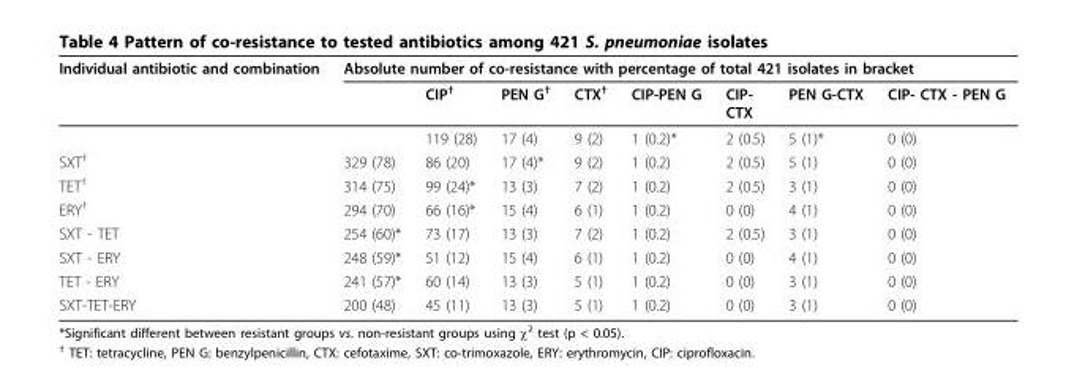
<table><thead><tr><td rowspan="2">Individual antibiotic and combination</td><td colspan="8">Absolute number of co-resistance with percentage of total 421 isolates in bracket</td></tr><tr><td></td><td>CIP<sup>†</sup></td><td>PEN G<sup>†</sup></td><td>CTX<sup>†</sup></td><td>CIP-PEN G</td><td>CIP- CTX</td><td>PEN G-CTX</td><td>CIP- CTX - PEN G</td></tr></thead><tbody><tr><td></td><td></td><td>119 (28)</td><td>17 (4)</td><td>9 (2)</td><td>1 (0.2)*</td><td>2 (0.5)</td><td>5 (1)*</td><td>0 (0)</td></tr><tr><td>SXT<sup>†</sup></td><td>329 (78)</td><td>86 (20)</td><td>17 (4)*</td><td>9 (2)</td><td>1 (0.2)</td><td>2 (0.5)</td><td>5 (1)</td><td>0 (0)</td></tr><tr><td>TET<sup>†</sup></td><td>314 (75)</td><td>99 (24)*</td><td>13 (3)</td><td>7 (2)</td><td>1 (0.2)</td><td>2 (0.5)</td><td>3 (1)</td><td>0 (0)</td></tr><tr><td>ERY<sup>†</sup></td><td>294 (70)</td><td>66 (16)*</td><td>15 (4)</td><td>6 (1)</td><td>1 (0.2)</td><td>0 (0)</td><td>4 (1)</td><td>0 (0)</td></tr><tr><td>SXT - TET</td><td>254 (60)*</td><td>73 (17)</td><td>13 (3)</td><td>7 (2)</td><td>1 (0.2)</td><td>2 (0.5)</td><td>3 (1)</td><td>0 (0)</td></tr><tr><td>SXT - ERY</td><td>248 (59)*</td><td>51 (12)</td><td>15 (4)</td><td>6 (1)</td><td>1 (0.2)</td><td>0 (0)</td><td>4 (1)</td><td>0 (0)</td></tr><tr><td>TET - ERY</td><td>241 (57)*</td><td>60 (14)</td><td>13 (3)</td><td>5 (1)</td><td>1 (0.2)</td><td>0 (0)</td><td>3 (1)</td><td>0 (0)</td></tr><tr><td>SXT-TET-ERY</td><td>200 (48)</td><td>45 (11)</td><td>13 (3)</td><td>5 (1)</td><td>1 (0.2)</td><td>0 (0)</td><td>3 (1)</td><td>0 (0)</td></tr></tbody></table>